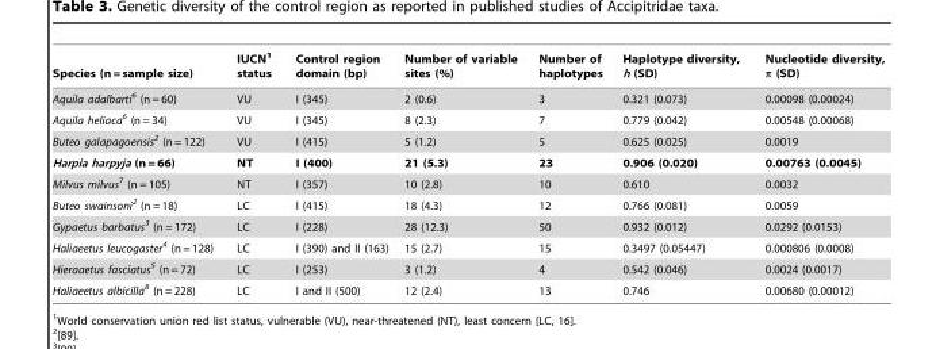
<table><thead><tr><td>Species (n = sample size)</td><td>IUCN<sup>1</sup> status</td><td>Control region domain (bp)</td><td>Number of variable sites (%)</td><td>Number of haplotypes</td><td>Haplotype diversity, h (SD)</td><td>Nucleotide diversity, π (SD)</td></tr></thead><tbody><tr><td>Aquila adalbarti<sup>6</sup> (n = 60)</td><td>VU</td><td>I (345)</td><td>2 (0.6)</td><td>3</td><td>0.321 (0.073)</td><td>0.00098 (0.00024)</td></tr><tr><td>Aquila heliaca<sup>6</sup> (n = 34)</td><td>VU</td><td>I (345)</td><td>8 (2.3)</td><td>7</td><td>0.779 (0.042)</td><td>0.00548 (0.00068)</td></tr><tr><td>Buteo galapagoensis2 (n = 122)</td><td>VU</td><td>I (415)</td><td>5 (1.2)</td><td>5</td><td>0.625 (0.025)</td><td>0.0019</td></tr><tr><td>Harpia harpyja (n = 66)</td><td>NT</td><td>I (400)</td><td>21 (5.3)</td><td>23</td><td>0.906 (0.020)</td><td>0.00763 (0.0045)</td></tr><tr><td>Milvus milvus<sup>7</sup> (n = 105)</td><td>NT</td><td>I (357)</td><td>10 (2.8)</td><td>10</td><td>0.610</td><td>0.0032</td></tr><tr><td>Buteo swainsoni2 (n = 18)</td><td>LC</td><td>I (415)</td><td>18 (4.3)</td><td>12</td><td>0.766 (0.081)</td><td>0.0059</td></tr><tr><td>Gypaetus barbatus<sup>3</sup> (n = 172)</td><td>LC</td><td>I (228)</td><td>28 (12.3)</td><td>50</td><td>0.932 (0.012)</td><td>0.0292 (0.0153)</td></tr><tr><td>Haliaeetus leucogaster<sup>4</sup> (n = 128)</td><td>LC</td><td>I (390) and II (163)</td><td>15 (2.7)</td><td>15</td><td>0.3497 (0.05447)</td><td>0.000806 (0.0008)</td></tr><tr><td>Hieraaetus fasciatus<sup>5</sup> (n = 72)</td><td>LC</td><td>I (253)</td><td>3 (1.2)</td><td>4</td><td>0.542 (0.046)</td><td>0.0024 (0.0017)</td></tr><tr><td>Haliaeetus albicilla<sup>8</sup> (n = 228)</td><td>LC</td><td>I and II (500)</td><td>12 (2.4)</td><td>13</td><td>0.746</td><td>0.00680 (0.00012)</td></tr></tbody></table>